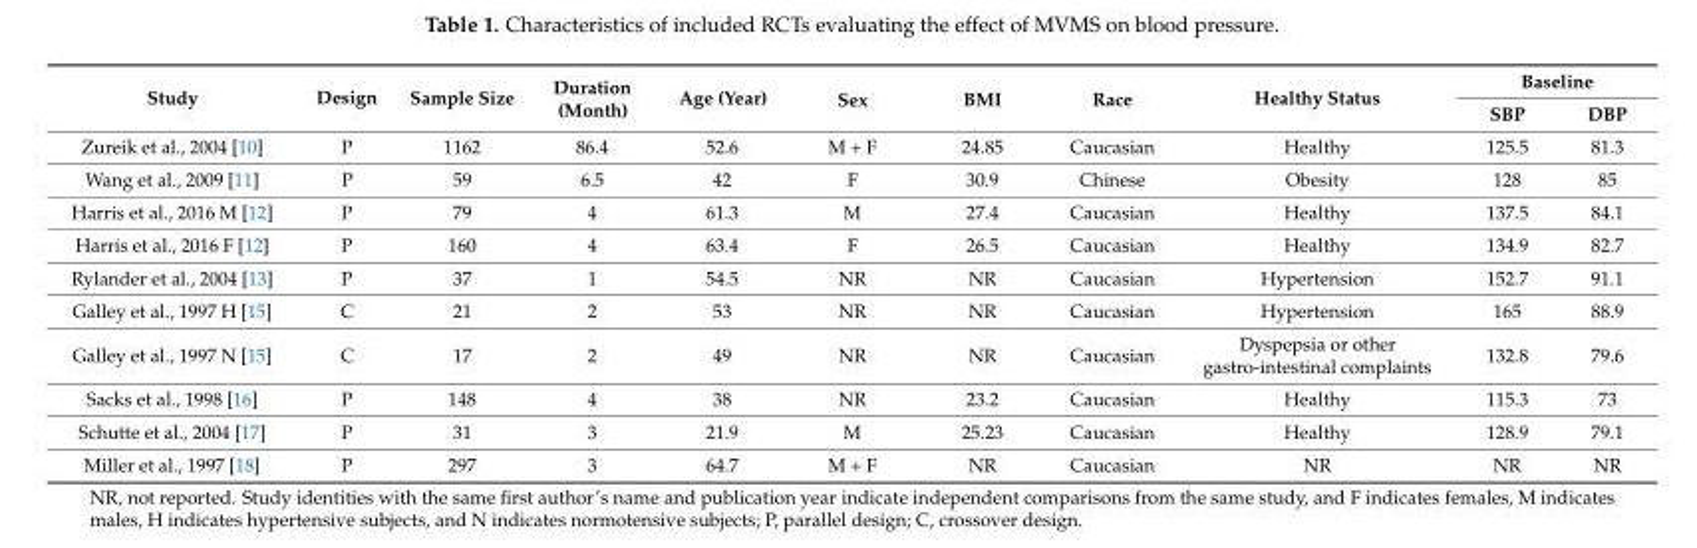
<table><thead><tr><td rowspan="2">Study</td><td rowspan="2">Design</td><td rowspan="2">Sample Size</td><td rowspan="2">Duration (Month)</td><td rowspan="2">Age (Year)</td><td rowspan="2">Sex</td><td rowspan="2">BMI</td><td rowspan="2">Race</td><td rowspan="2">Healthy Status</td><td colspan="2">Baseline</td></tr><tr><td>SBP</td><td>DBP</td></tr></thead><tbody><tr><td>Zureik et al., 2004 [10]</td><td>P</td><td>1162</td><td>86.4</td><td>52.6</td><td>M + F</td><td>24.85</td><td>Caucasian</td><td>Healthy</td><td>125.5</td><td>81.3</td></tr><tr><td>Wang et al., 2009 [11]</td><td>P</td><td>59</td><td>6.5</td><td>42</td><td>F</td><td>30.9</td><td>Chinese</td><td>Obesity</td><td>128</td><td>85</td></tr><tr><td>Harris et al., 2016 M [12]</td><td>P</td><td>79</td><td>4</td><td>61.3</td><td>M</td><td>27.4</td><td>Caucasian</td><td>Healthy</td><td>137.5</td><td>84.1</td></tr><tr><td>Harris et al., 2016 F [12]</td><td>P</td><td>160</td><td>4</td><td>63.4</td><td>F</td><td>26.5</td><td>Caucasian</td><td>Healthy</td><td>134.9</td><td>82.7</td></tr><tr><td>Rylander et al., 2004 [13]</td><td>P</td><td>37</td><td>1</td><td>54.5</td><td>NR</td><td>NR</td><td>Caucasian</td><td>Hypertension</td><td>152.7</td><td>91.1</td></tr><tr><td>Galley et al., 1997 H [15]</td><td>C</td><td>21</td><td>2</td><td>53</td><td>NR</td><td>NR</td><td>Caucasian</td><td>Hypertension</td><td>165</td><td>88.9</td></tr><tr><td>Galley et al., 1997 N [15]</td><td>C</td><td>17</td><td>2</td><td>49</td><td>NR</td><td>NR</td><td>Caucasian</td><td>Dyspepsia or other gastro-intestinal complaints</td><td>132.8</td><td>79.6</td></tr><tr><td>Sacks et al., 1998 [16]</td><td>P</td><td>148</td><td>4</td><td>38</td><td>NR</td><td>23.2</td><td>Caucasian</td><td>Healthy</td><td>115.3</td><td>73</td></tr><tr><td>Schutte et al., 2004 [17]</td><td>P</td><td>31</td><td>3</td><td>21.9</td><td>M</td><td>25.23</td><td>Caucasian</td><td>Healthy</td><td>128.9</td><td>79.1</td></tr><tr><td>Miller et al., 1997 [18]</td><td>P</td><td>297</td><td>3</td><td>64.7</td><td>M + F</td><td>NR</td><td>Caucasian</td><td>NR</td><td>NR</td><td>NR</td></tr></tbody></table>